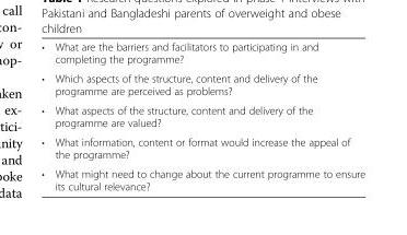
<table><tbody><tr><td>•</td><td>What are the barriers and facilitators to participating in and completing the programme?</td></tr><tr><td>•</td><td>Which aspects of the structure, content and delivery of the programme are perceived as problems?</td></tr><tr><td>•</td><td>What aspects of the structure, content and delivery of the programme are valued?</td></tr><tr><td>•</td><td>What information, content or format would increase the appeal of the programme?</td></tr><tr><td>•</td><td>What might need to change about the current programme to ensure its cultural relevance?</td></tr></tbody></table>